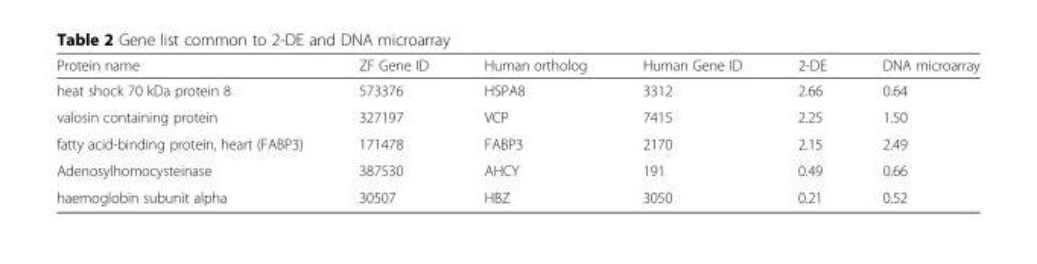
<table><thead><tr><td>Protein name</td><td>ZF Gene ID</td><td>Human ortholog</td><td>Human Gene ID</td><td>2-DE</td><td>DNA microarray</td></tr></thead><tbody><tr><td>heat shock 70 kDa protein 8</td><td>573376</td><td>HSPA8</td><td>3312</td><td>2.66</td><td>0.64</td></tr><tr><td>valosin containing protein</td><td>327197</td><td>VCP</td><td>7415</td><td>2.25</td><td>1.50</td></tr><tr><td>fatty acid-binding protein, heart (FABP3)</td><td>171478</td><td>FABP3</td><td>2170</td><td>2.15</td><td>2.49</td></tr><tr><td>Adenosylhomocysteinase</td><td>387530</td><td>AHCY</td><td>191</td><td>0.49</td><td>0.66</td></tr><tr><td>haemoglobin subunit alpha</td><td>30507</td><td>HBZ</td><td>3050</td><td>0.21</td><td>0.52</td></tr></tbody></table>